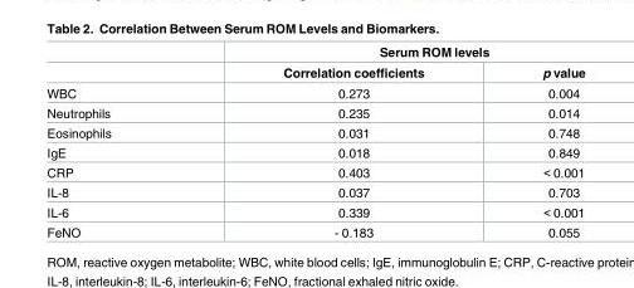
<table><thead><tr><td rowspan="2"></td><td colspan="2">Serum ROM levels</td></tr><tr><td>Correlation coefficients</td><td>p value</td></tr></thead><tbody><tr><td>WBC</td><td>0.273</td><td>0.004</td></tr><tr><td>Neutrophils</td><td>0.235</td><td>0.014</td></tr><tr><td>Eosinophils</td><td>0.031</td><td>0.748</td></tr><tr><td>IgE</td><td>0.018</td><td>0.849</td></tr><tr><td>CRP</td><td>0.403</td><td>&lt; 0.001</td></tr><tr><td>IL-8</td><td>0.037</td><td>0.703</td></tr><tr><td>IL-6</td><td>0.339</td><td>&lt; 0.001</td></tr><tr><td>FeNO</td><td>- 0.183</td><td>0.055</td></tr></tbody></table>